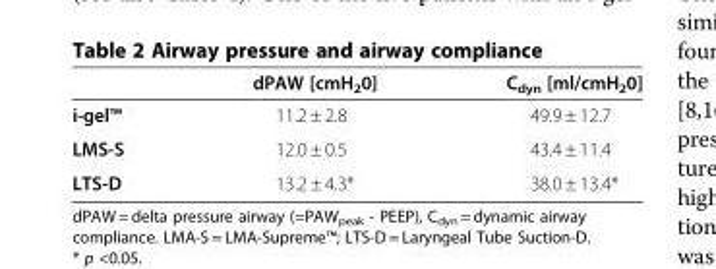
<table><thead><tr><td></td><td>dPAW [cmH<sub>2</sub>0]</td><td>C<sub>dyn</sub> [ml/cmH<sub>2</sub>0]</td></tr></thead><tbody><tr><td>i-gel™</td><td>11.2 ± 2.8</td><td>49.9 ± 12.7</td></tr><tr><td>LMS-S</td><td>12.0 ± 0.5</td><td>43.4 ± 11.4</td></tr><tr><td>LTS-D</td><td>13.2 ± 4.3*</td><td>38.0 ± 13.4*</td></tr></tbody></table>